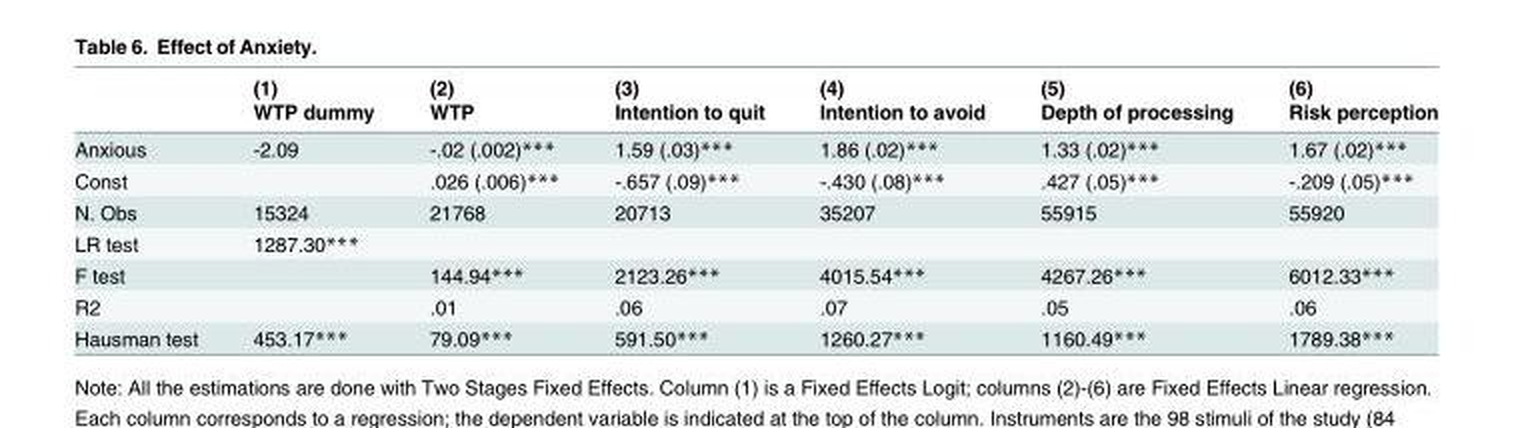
<table><thead><tr><td rowspan="2"></td><td rowspan="2">(1) WTP dummy</td><td rowspan="2">(2) WTP</td><td rowspan="2">(3) Intention to quit</td><td rowspan="2">(4) Intention to avoid</td><td rowspan="2">(5) Depth of processing</td><td rowspan="2">(6) Risk perception</td></tr><tr></tr></thead><tbody><tr><td>Anxious</td><td>-2.09</td><td>-.02 (.002)***</td><td>1.59 (.03)***</td><td>1.86 (.02)***</td><td>1.33 (.02)***</td><td>1.67 (.02)***</td></tr><tr><td>Const</td><td></td><td>.026 (.006)***</td><td>-.657 (.09)***</td><td>-.430 (.08)***</td><td>.427 (.05)***</td><td>-.209 (.05)***</td></tr><tr><td>N. Obs</td><td>15324</td><td>21768</td><td>20713</td><td>35207</td><td>55915</td><td>55920</td></tr><tr><td>LR test</td><td>1287.30***</td><td></td><td></td><td></td><td></td><td></td></tr><tr><td>F test</td><td></td><td>144.94***</td><td>2123.26***</td><td>4015.54***</td><td>4267.26***</td><td>6012.33***</td></tr><tr><td>R2</td><td></td><td>.01</td><td>.06</td><td>.07</td><td>.05</td><td>.06</td></tr><tr><td>Hausman test</td><td>453.17***</td><td>79.09***</td><td>591.50***</td><td>1260.27***</td><td>1160.49***</td><td>1789.38***</td></tr></tbody></table>